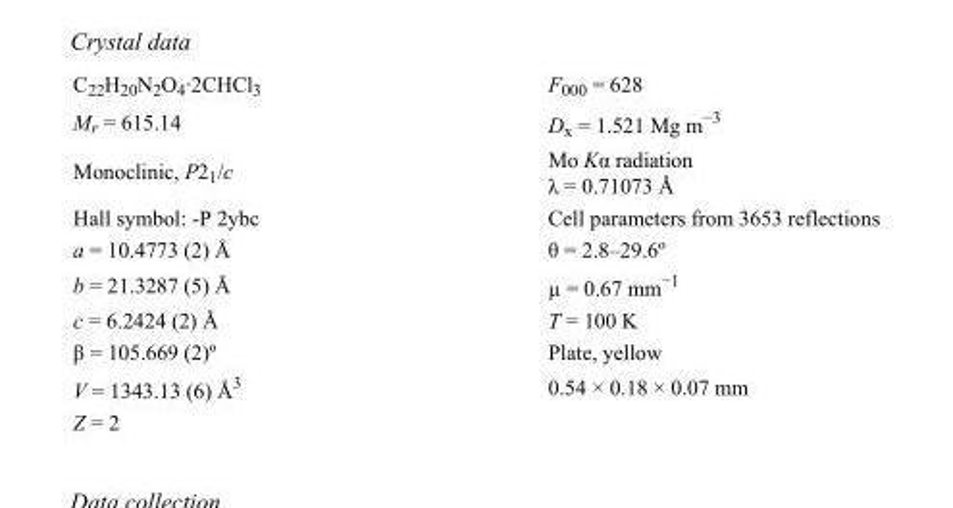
<table><tbody><tr><td>C<sub>22</sub>H<sub>20</sub>N<sub>2</sub>O<sub>4</sub>·2CHCl<sub>3</sub></td><td>F000 = 628</td></tr><tr><td>M<sub>r</sub> = 615.14</td><td>D<sub>x</sub> = 1.521 Mg m<sup>−3</sup></td></tr><tr><td>Monoclinic, P2<sub>1</sub>/c</td><td>Mo Kα radiation λ = 0.71073 Å</td></tr><tr><td>Hall symbol: -P 2ybc</td><td>Cell parameters from 3653 reflections</td></tr><tr><td>a = 10.4773 (2) Å</td><td>θ = 2.8–29.6º</td></tr><tr><td>b = 21.3287 (5) Å</td><td>µ = 0.67 mm<sup>−1</sup></td></tr><tr><td>c = 6.2424 (2) Å</td><td>T = 100 K</td></tr><tr><td>β = 105.669 (2)º</td><td>Plate, yellow</td></tr><tr><td>V = 1343.13 (6) Å<sup>3</sup></td><td>0.54 × 0.18 × 0.07 mm</td></tr><tr><td>Z = 2</td><td></td></tr></tbody></table>